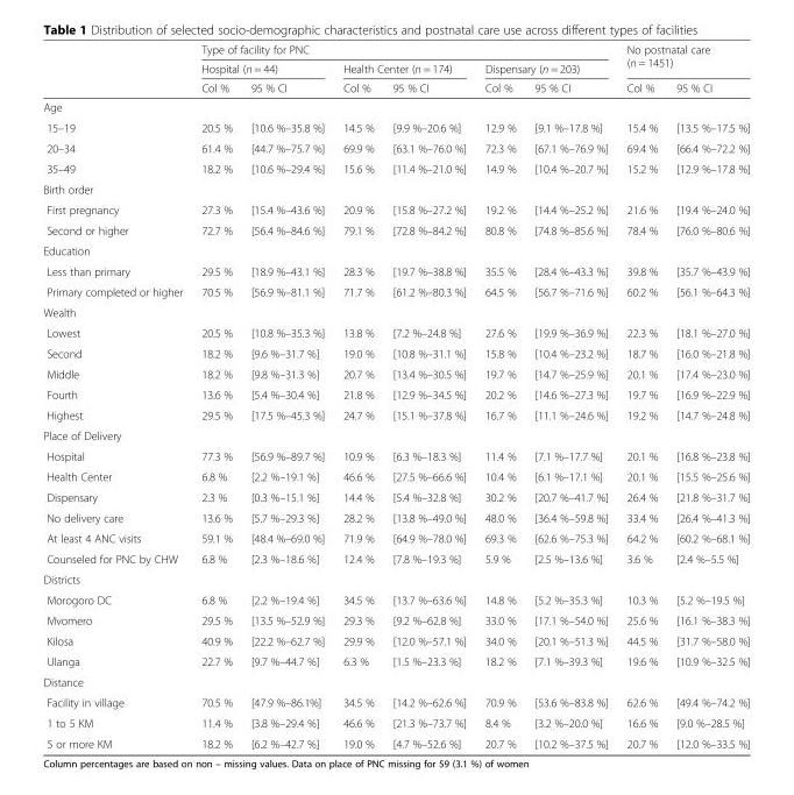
<table><thead><tr><td rowspan="3"></td><td colspan="6">Type of facility for PNC</td><td rowspan="2" colspan="2">No postnatal care (n = 1451)</td></tr><tr><td colspan="2">Hospital (n = 44)</td><td colspan="2">Health Center (n = 174)</td><td colspan="2">Dispensary (n = 203)</td></tr><tr><td>Col %</td><td>95 % CI</td><td>Col %</td><td>95 % CI</td><td>Col %</td><td>95 % CI</td><td>Col %</td><td>95 % CI</td></tr></thead><tbody><tr><td colspan="9">Age</td></tr><tr><td>15–19</td><td>20.5 %</td><td>[10.6 %–35.8 %]</td><td>14.5 %</td><td>[9.9 %–20.6 %]</td><td>12.9 %</td><td>[9.1 %–17.8 %]</td><td>15.4 %</td><td>[13.5 %–17.5 %]</td></tr><tr><td>20–34</td><td>61.4 %</td><td>[44.7 %–75.7 %]</td><td>69.9 %</td><td>[63.1 %–76.0 %]</td><td>72.3 %</td><td>[67.1 %–76.9 %]</td><td>69.4 %</td><td>[66.4 %–72.2 %]</td></tr><tr><td>35–49</td><td>18.2 %</td><td>[10.6 %–29.4 %]</td><td>15.6 %</td><td>[11.4 %–21.0 %]</td><td>14.9 %</td><td>[10.4 %–20.7 %]</td><td>15.2 %</td><td>[12.9 %–17.8 %]</td></tr><tr><td colspan="9">Birth order</td></tr><tr><td>First pregnancy</td><td>27.3 %</td><td>[15.4 %–43.6 %]</td><td>20.9 %</td><td>[15.8 %–27.2 %]</td><td>19.2 %</td><td>[14.4 %–25.2 %]</td><td>21.6 %</td><td>[19.4 %–24.0 %]</td></tr><tr><td>Second or higher</td><td>72.7 %</td><td>[56.4 %–84.6 %]</td><td>79.1 %</td><td>[72.8 %–84.2 %]</td><td>80.8 %</td><td>[74.8 %–85.6 %]</td><td>78.4 %</td><td>[76.0 %–80.6 %]</td></tr><tr><td colspan="9">Education</td></tr><tr><td>Less than primary</td><td>29.5 %</td><td>[18.9 %–43.1 %]</td><td>28.3 %</td><td>[19.7 %–38.8 %]</td><td>35.5 %</td><td>[28.4 %–43.3 %]</td><td>39.8 %</td><td>[35.7 %–43.9 %]</td></tr><tr><td>Primary completed or higher</td><td>70.5 %</td><td>[56.9 %–81.1 %]</td><td>71.7 %</td><td>[61.2 %–80.3 %]</td><td>64.5 %</td><td>[56.7 %–71.6 %]</td><td>60.2 %</td><td>[56.1 %–64.3 %]</td></tr><tr><td colspan="9">Wealth</td></tr><tr><td>Lowest</td><td>20.5 %</td><td>[10.8 %–35.3 %]</td><td>13.8 %</td><td>[7.2 %–24.8 %]</td><td>27.6 %</td><td>[19.9 %–36.9 %]</td><td>22.3 %</td><td>[18.1 %–27.0 %]</td></tr><tr><td>Second</td><td>18.2 %</td><td>[9.6 %–31.7 %]</td><td>19.0 %</td><td>[10.8 %–31.1 %]</td><td>15.8 %</td><td>[10.4 %–23.2 %]</td><td>18.7 %</td><td>[16.0 %–21.8 %]</td></tr><tr><td>Middle</td><td>18.2 %</td><td>[9.8 %–31.3 %]</td><td>20.7 %</td><td>[13.4 %–30.5 %]</td><td>19.7 %</td><td>[14.7 %–25.9 %]</td><td>20.1 %</td><td>[17.4 %–23.0 %]</td></tr><tr><td>Fourth</td><td>13.6 %</td><td>[5.4 %–30.4 %]</td><td>21.8 %</td><td>[12.9 %–34.5 %]</td><td>20.2 %</td><td>[14.6 %–27.3 %]</td><td>19.7 %</td><td>[16.9 %–22.9 %]</td></tr><tr><td>Highest</td><td>29.5 %</td><td>[17.5 %–45.3 %]</td><td>24.7 %</td><td>[15.1 %–37.8 %]</td><td>16.7 %</td><td>[11.1 %–24.6 %]</td><td>19.2 %</td><td>[14.7 %–24.8 %]</td></tr><tr><td colspan="9">Place of Delivery</td></tr><tr><td>Hospital</td><td>77.3 %</td><td>[56.9 %–89.7 %]</td><td>10.9 %</td><td>[6.3 %–18.3 %]</td><td>11.4 %</td><td>[7.1 %–17.7 %]</td><td>20.1 %</td><td>[16.8 %–23.8 %]</td></tr><tr><td>Health Center</td><td>6.8 %</td><td>[2.2 %–19.1 %]</td><td>46.6 %</td><td>[27.5 %–66.6 %]</td><td>10.4 %</td><td>[6.1 %–17.1 %]</td><td>20.1 %</td><td>[15.5 %–25.6 %]</td></tr><tr><td>Dispensary</td><td>2.3 %</td><td>[0.3 %–15.1 %]</td><td>14.4 %</td><td>[5.4 %–32.8 %]</td><td>30.2 %</td><td>[20.7 %–41.7 %]</td><td>26.4 %</td><td>[21.8 %–31.7 %]</td></tr><tr><td>No delivery care</td><td>13.6 %</td><td>[5.7 %–29.3 %]</td><td>28.2 %</td><td>[13.8 %–49.0 %]</td><td>48.0 %</td><td>[36.4 %–59.8 %]</td><td>33.4 %</td><td>[26.4 %–41.3 %]</td></tr><tr><td>At least 4 ANC visits</td><td>59.1 %</td><td>[48.4 %–69.0 %]</td><td>71.9 %</td><td>[64.9 %–78.0 %]</td><td>69.3 %</td><td>[62.6 %–75.3 %]</td><td>64.2 %</td><td>[60.2 %–68.1 %]</td></tr><tr><td>Counseled for PNC by CHW</td><td>6.8 %</td><td>[2.3 %–18.6 %]</td><td>12.4 %</td><td>[7.8 %–19.3 %]</td><td>5.9 %</td><td>[2.5 %–13.6 %]</td><td>3.6 %</td><td>[2.4 %–5.5 %]</td></tr><tr><td colspan="9">Districts</td></tr><tr><td>Morogoro DC</td><td>6.8 %</td><td>[2.2 %–19.4 %]</td><td>34.5 %</td><td>[13.7 %–63.6 %]</td><td>14.8 %</td><td>[5.2 %–35.3 %]</td><td>10.3 %</td><td>[5.2 %–19.5 %]</td></tr><tr><td>Mvomero</td><td>29.5 %</td><td>[13.5 %–52.9 %]</td><td>29.3 %</td><td>[9.2 %–62.8 %]</td><td>33.0 %</td><td>[17.1 %–54.0 %]</td><td>25.6 %</td><td>[16.1 %–38.3 %]</td></tr><tr><td>Kilosa</td><td>40.9 %</td><td>[22.2 %–62.7 %]</td><td>29.9 %</td><td>[12.0 %–57.1 %]</td><td>34.0 %</td><td>[20.1 %–51.3 %]</td><td>44.5 %</td><td>[31.7 %–58.0 %]</td></tr><tr><td>Ulanga</td><td>22.7 %</td><td>[9.7 %–44.7 %]</td><td>6.3 %</td><td>[1.5 %–23.3 %]</td><td>18.2 %</td><td>[7.1 %–39.3 %]</td><td>19.6 %</td><td>[10.9 %–32.5 %]</td></tr><tr><td colspan="9">Distance</td></tr><tr><td>Facility in village</td><td>70.5 %</td><td>[47.9 %–86.1%]</td><td>34.5 %</td><td>[14.2 %–62.6 %]</td><td>70.9 %</td><td>[53.6 %–83.8 %]</td><td>62.6 %</td><td>[49.4 %–74.2 %]</td></tr><tr><td>1 to 5 KM</td><td>11.4 %</td><td>[3.8 %–29.4 %]</td><td>46.6 %</td><td>[21.3 %–73.7 %]</td><td>8.4 %</td><td>[3.2 %–20.0 %]</td><td>16.6 %</td><td>[9.0 %–28.5 %]</td></tr><tr><td>5 or more KM</td><td>18.2 %</td><td>[6.2 %–42.7 %]</td><td>19.0 %</td><td>[4.7 %–52.6 %]</td><td>20.7 %</td><td>[10.2 %–37.5 %]</td><td>20.7 %</td><td>[12.0 %–33.5 %]</td></tr></tbody></table>